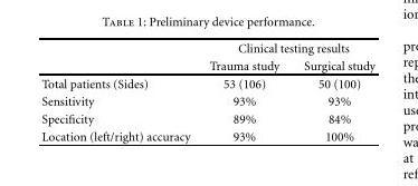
<table><thead><tr><td rowspan="2"></td><td colspan="2">Clinical testing results</td></tr><tr><td>Trauma study</td><td>Surgical study</td></tr></thead><tbody><tr><td>Total patients (Sides)</td><td>53 (106)</td><td>50 (100)</td></tr><tr><td>Sensitivity</td><td>93%</td><td>93%</td></tr><tr><td>Specificity</td><td>89%</td><td>84%</td></tr><tr><td>Location (left/right) accuracy</td><td>93%</td><td>100%</td></tr></tbody></table>